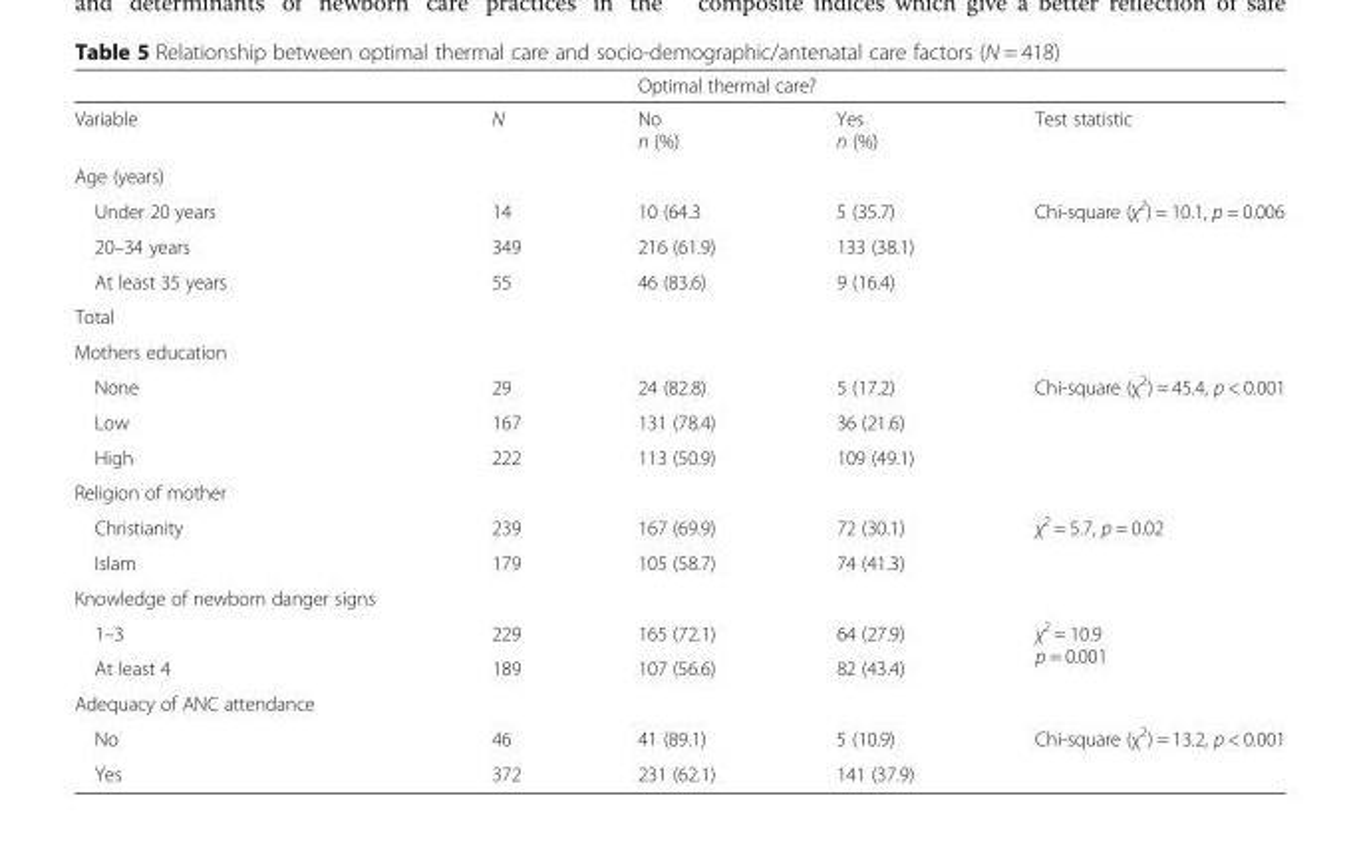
<table><thead><tr><td rowspan="2">Variable</td><td rowspan="2">N</td><td colspan="2">Optimal thermal care?</td><td rowspan="2">Test statistic</td></tr><tr><td>No n (%)</td><td>Yes n (%)</td></tr></thead><tbody><tr><td colspan="5">Age (years)</td></tr><tr><td>Under 20 years</td><td>14</td><td>10 (64.3</td><td>5 (35.7)</td><td rowspan="3">Chi-square (χ<sup>2</sup>) = 10.1, p = 0.006</td></tr><tr><td>20–34 years</td><td>349</td><td>216 (61.9)</td><td>133 (38.1)</td></tr><tr><td>At least 35 years</td><td>55</td><td>46 (83.6)</td><td>9 (16.4)</td></tr><tr><td colspan="5">Total</td></tr><tr><td colspan="5">Mothers education</td></tr><tr><td>None</td><td>29</td><td>24 (82.8)</td><td>5 (17.2)</td><td rowspan="2">Chi-square (χ<sup>2</sup>) = 45.4, p &lt; 0.001</td></tr><tr><td>Low</td><td>167</td><td>131 (78.4)</td><td>36 (21.6)</td></tr><tr><td>High</td><td>222</td><td>113 (50.9)</td><td>109 (49.1)</td><td></td></tr><tr><td colspan="5">Religion of mother</td></tr><tr><td>Christianity</td><td>239</td><td>167 (69.9)</td><td>72 (30.1)</td><td rowspan="2">χ<sup>2</sup> = 5.7, p = 0.02</td></tr><tr><td>Islam</td><td>179</td><td>105 (58.7)</td><td>74 (41.3)</td></tr><tr><td colspan="5">Knowledge of newborn danger signs</td></tr><tr><td>1–3</td><td>229</td><td>165 (72.1)</td><td>64 (27.9)</td><td rowspan="2">χ<sup>2</sup> = 10.9 p = 0.001</td></tr><tr><td>At least 4</td><td>189</td><td>107 (56.6)</td><td>82 (43.4)</td></tr><tr><td colspan="5">Adequacy of ANC attendance</td></tr><tr><td>No</td><td>46</td><td>41 (89.1)</td><td>5 (10.9)</td><td rowspan="2">Chi-square (χ<sup>2</sup>) = 13.2, p &lt; 0.001</td></tr><tr><td>Yes</td><td>372</td><td>231 (62.1)</td><td>141 (37.9)</td></tr></tbody></table>